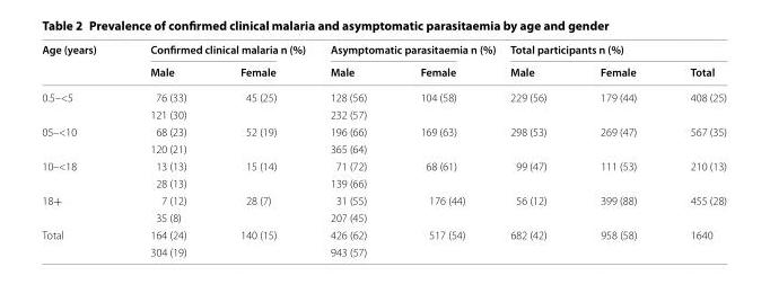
<table><thead><tr><td rowspan="2">Age (years)</td><td colspan="2">Confirmed clinical malaria n (%)</td><td colspan="2">Asymptomatic parasitaemia n (%)</td><td colspan="3">Total participants n (%)</td></tr><tr><td>Male</td><td>Female</td><td>Male</td><td>Female</td><td>Male</td><td>Female</td><td>Total</td></tr></thead><tbody><tr><td rowspan="2">0.5–&lt;5</td><td>76 (33)</td><td>45 (25)</td><td>128 (56)</td><td>104 (58)</td><td rowspan="2">229 (56)</td><td rowspan="2">179 (44)</td><td rowspan="2">408 (25)</td></tr><tr><td colspan="2">121 (30)</td><td colspan="2">232 (57)</td></tr><tr><td rowspan="2">05–&lt;10</td><td>68 (23)</td><td>52 (19)</td><td>196 (66)</td><td>169 (63)</td><td rowspan="2">298 (53)</td><td rowspan="2">269 (47)</td><td rowspan="2">567 (35)</td></tr><tr><td colspan="2">120 (21)</td><td colspan="2">365 (64)</td></tr><tr><td rowspan="2">10–&lt;18</td><td>13 (13)</td><td>15 (14)</td><td>71 (72)</td><td>68 (61)</td><td rowspan="2">99 (47)</td><td rowspan="2">111 (53)</td><td rowspan="2">210 (13)</td></tr><tr><td colspan="2">28 (13)</td><td colspan="2">139 (66)</td></tr><tr><td rowspan="2">18+</td><td>7 (12)</td><td>28 (7)</td><td>31 (55)</td><td>176 (44)</td><td rowspan="2">56 (12)</td><td rowspan="2">399 (88)</td><td rowspan="2">455 (28)</td></tr><tr><td colspan="2">35 (8)</td><td colspan="2">207 (45)</td></tr><tr><td rowspan="2">Total</td><td>164 (24)</td><td>140 (15)</td><td>426 (62)</td><td>517 (54)</td><td rowspan="2">682 (42)</td><td rowspan="2">958 (58)</td><td rowspan="2">1640</td></tr><tr><td colspan="2">304 (19)</td><td colspan="2">943 (57)</td></tr></tbody></table>